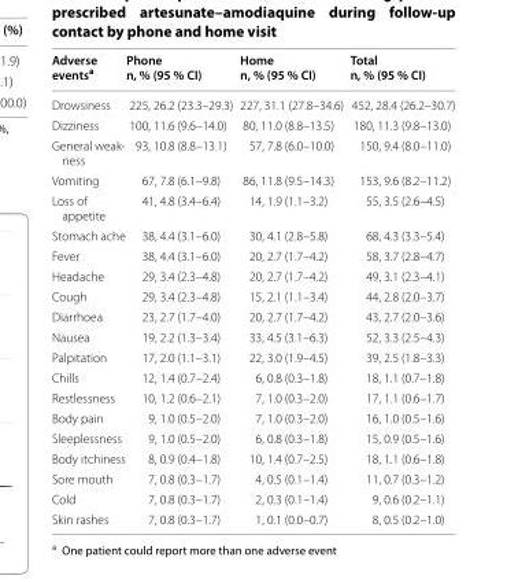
<table><thead><tr><td>Adverse events<sup>a</sup></td><td>Phone n, % (95 % CI)</td><td>Home n, % (95 % CI)</td><td>Total n, % (95 % CI)</td></tr></thead><tbody><tr><td>Drowsiness</td><td>225, 26.2 (23.3–29.3)</td><td>227, 31.1 (27.8–34.6)</td><td>452, 28.4 (26.2–30.7)</td></tr><tr><td>Dizziness</td><td>100, 11.6 (9.6–14.0)</td><td>80, 11.0 (8.8–13.5)</td><td>180, 11.3 (9.8–13.0)</td></tr><tr><td>General weak‑ ness</td><td>93, 10.8 (8.8–13.1)</td><td>57, 7.8 (6.0–10.0)</td><td>150, 9.4 (8.0–11.0)</td></tr><tr><td>Vomiting</td><td>67, 7.8 (6.1–9.8)</td><td>86, 11.8 (9.5–14.3)</td><td>153, 9.6 (8.2–11.2)</td></tr><tr><td>Loss of appetite</td><td>41, 4.8 (3.4–6.4)</td><td>14, 1.9 (1.1–3.2)</td><td>55, 3.5 (2.6–4.5)</td></tr><tr><td>Stomach ache</td><td>38, 4.4 (3.1–6.0)</td><td>30, 4.1 (2.8–5.8)</td><td>68, 4.3 (3.3–5.4)</td></tr><tr><td>Fever</td><td>38, 4.4 (3.1–6.0)</td><td>20, 2.7 (1.7–4.2)</td><td>58, 3.7 (2.8–4.7)</td></tr><tr><td>Headache</td><td>29, 3.4 (2.3–4.8)</td><td>20, 2.7 (1.7–4.2)</td><td>49, 3.1 (2.3–4.1)</td></tr><tr><td>Cough</td><td>29, 3.4 (2.3–4.8)</td><td>15, 2.1 (1.1–3.4)</td><td>44, 2.8 (2.0–3.7)</td></tr><tr><td>Diarrhoea</td><td>23, 2.7 (1.7–4.0)</td><td>20, 2.7 (1.7–4.2)</td><td>43, 2.7 (2.0–3.6)</td></tr><tr><td>Nausea</td><td>19, 2.2 (1.3–3.4)</td><td>33, 4.5 (3.1–6.3)</td><td>52, 3.3 (2.5–4.3)</td></tr><tr><td>Palpitation</td><td>17, 2.0 (1.1–3.1)</td><td>22, 3.0 (1.9–4.5)</td><td>39, 2.5 (1.8–3.3)</td></tr><tr><td>Chills</td><td>12, 1.4 (0.7–2.4)</td><td>6, 0.8 (0.3–1.8)</td><td>18, 1.1 (0.7–1.8)</td></tr><tr><td>Restlessness</td><td>10, 1.2 (0.6–2.1)</td><td>7, 1.0 (0.3–2.0)</td><td>17, 1.1 (0.6–1.7)</td></tr><tr><td>Body pain</td><td>9, 1.0 (0.5–2.0)</td><td>7, 1.0 (0.3–2.0)</td><td>16, 1.0 (0.5–1.6)</td></tr><tr><td>Sleeplessness</td><td>9, 1.0 (0.5–2.0)</td><td>6, 0.8 (0.3–1.8)</td><td>15, 0.9 (0.5–1.6)</td></tr><tr><td>Body itchiness</td><td>8, 0.9 (0.4–1.8)</td><td>10, 1.4 (0.7–2.5)</td><td>18, 1.1 (0.6–1.8)</td></tr><tr><td>Sore mouth</td><td>7, 0.8 (0.3–1.7)</td><td>4, 0.5 (0.1–1.4)</td><td>11, 0.7 (0.3–1.2)</td></tr><tr><td>Cold</td><td>7, 0.8 (0.3–1.7)</td><td>2, 0.3 (0.1–1.4)</td><td>9, 0.6 (0.2–1.1)</td></tr><tr><td>Skin rashes</td><td>7, 0.8 (0.3–1.7)</td><td>1, 0.1 (0.0–0.7)</td><td>8, 0.5 (0.2–1.0)</td></tr></tbody></table>